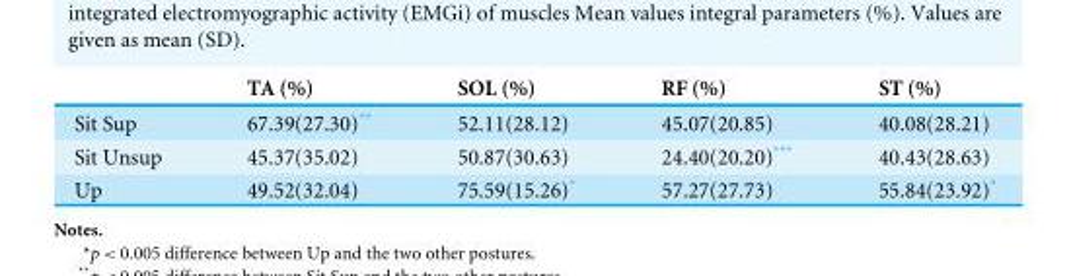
<table><thead><tr><td></td><td>TA (%)</td><td>SOL (%)</td><td>RF (%)</td><td>ST (%)</td></tr></thead><tbody><tr><td>Sit Sup</td><td>67.39(27.30)**</td><td>52.11(28.12)</td><td>45.07(20.85)</td><td>40.08(28.21)</td></tr><tr><td>Sit Unsup</td><td>45.37(35.02)</td><td>50.87(30.63)</td><td>24.40(20.20)***</td><td>40.43(28.63)</td></tr><tr><td>Up</td><td>49.52(32.04)</td><td>75.59(15.26)*</td><td>57.27(27.73)</td><td>55.84(23.92)*</td></tr></tbody></table>